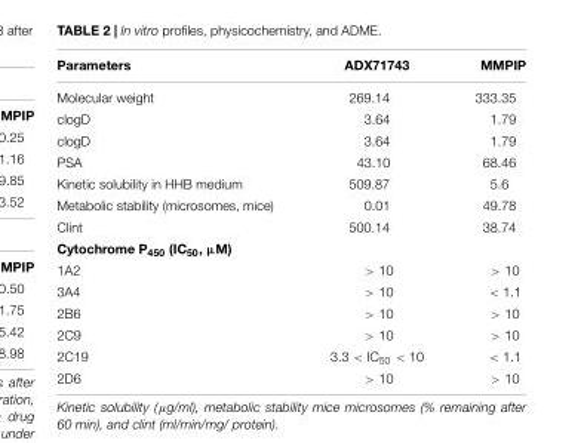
<table><thead><tr><td>Parameters</td><td>ADX71743</td><td>MMPIP</td></tr></thead><tbody><tr><td>Molecular weight</td><td>269.14</td><td>333.35</td></tr><tr><td>clogD</td><td>3.64</td><td>1.79</td></tr><tr><td>clogD</td><td>3.64</td><td>1.79</td></tr><tr><td>PSA</td><td>43.10</td><td>68.46</td></tr><tr><td>Kinetic solubility in HHB medium</td><td>509.87</td><td>5.6</td></tr><tr><td>Metabolic stability (microsomes, mice)</td><td>0.01</td><td>49.78</td></tr><tr><td>Clint</td><td>500.14</td><td>38.74</td></tr><tr><td colspan="3">Cytochrome P<sub>450</sub> (IC<sub>50</sub>, µM)</td></tr><tr><td>1A2</td><td>&gt; 10</td><td>&gt; 10</td></tr><tr><td>3A4</td><td>&gt; 10</td><td>&lt; 1.1</td></tr><tr><td>2B6</td><td>&gt; 10</td><td>&gt; 10</td></tr><tr><td>2C9</td><td>&gt; 10</td><td>&gt; 10</td></tr><tr><td>2C19</td><td>3.3 &lt; IC<sub>50</sub> &lt; 10</td><td>&lt; 1.1</td></tr><tr><td>2D6</td><td>&gt; 10</td><td>&gt; 10</td></tr></tbody></table>